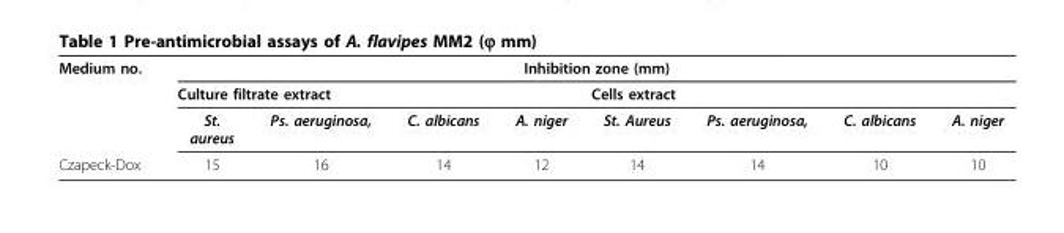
<table><tbody><tr><td rowspan="3">Medium no.</td><td colspan="8">Inhibition zone (mm)</td></tr><tr><td colspan="4">Culture filtrate extract</td><td colspan="4">Cells extract</td></tr><tr><td>St. aureus</td><td>Ps. aeruginosa,</td><td>C. albicans</td><td>A. niger</td><td>St. Aureus</td><td>Ps. aeruginosa,</td><td>C. albicans</td><td>A. niger</td></tr><tr><td>Czapeck-Dox</td><td>15</td><td>16</td><td>14</td><td>12</td><td>14</td><td>14</td><td>10</td><td>10</td></tr></tbody></table>